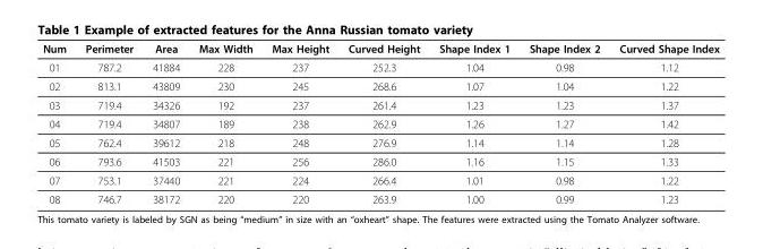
<table><thead><tr><td>Num</td><td>Perimeter</td><td>Area</td><td>Max Width</td><td>Max Height</td><td>Curved Height</td><td>Shape Index 1</td><td>Shape Index 2</td><td>Curved Shape Index</td></tr></thead><tbody><tr><td>01</td><td>787.2</td><td>41884</td><td>228</td><td>237</td><td>252.3</td><td>1.04</td><td>0.98</td><td>1.12</td></tr><tr><td>02</td><td>813.1</td><td>43809</td><td>230</td><td>245</td><td>268.6</td><td>1.07</td><td>1.04</td><td>1.22</td></tr><tr><td>03</td><td>719.4</td><td>34326</td><td>192</td><td>237</td><td>261.4</td><td>1.23</td><td>1.23</td><td>1.37</td></tr><tr><td>04</td><td>719.4</td><td>34807</td><td>189</td><td>238</td><td>262.9</td><td>1.26</td><td>1.27</td><td>1.42</td></tr><tr><td>05</td><td>762.4</td><td>39612</td><td>218</td><td>248</td><td>276.9</td><td>1.14</td><td>1.14</td><td>1.28</td></tr><tr><td>06</td><td>793.6</td><td>41503</td><td>221</td><td>256</td><td>286.0</td><td>1.16</td><td>1.15</td><td>1.33</td></tr><tr><td>07</td><td>753.1</td><td>37440</td><td>221</td><td>224</td><td>266.4</td><td>1.01</td><td>0.98</td><td>1.22</td></tr><tr><td>08</td><td>746.7</td><td>38172</td><td>220</td><td>220</td><td>263.9</td><td>1.00</td><td>0.99</td><td>1.23</td></tr></tbody></table>